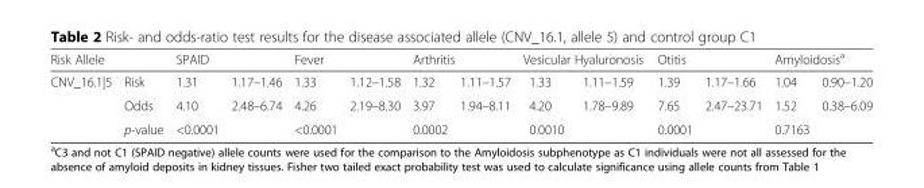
<table><thead><tr><td rowspan="2">Risk Allele CNV_16.1|5</td><td rowspan="2">Risk</td><td colspan="2">SPAID</td><td colspan="2">Fever</td><td colspan="2">Arthritis</td><td colspan="2">Vesicular Hyaluronosis</td><td colspan="2">Otitis</td><td colspan="2">Amyloidosis<sup>a</sup></td></tr><tr><td>1.31</td><td>1.17–1.46</td><td>1.33</td><td>1.12–1.58</td><td>1.32</td><td>1.11–1.57</td><td>1.33</td><td>1.11–1.59</td><td>1.39</td><td>1.17–1.66</td><td>1.04</td><td>0.90–1.20</td></tr></thead><tbody><tr><td></td><td>Odds</td><td>4.10</td><td>2.48–6.74</td><td>4.26</td><td>2.19–8.30</td><td>3.97</td><td>1.94–8.11</td><td>4.20</td><td>1.78–9.89</td><td>7.65</td><td>2.47–23.71</td><td>1.52</td><td>0.38–6.09</td></tr><tr><td></td><td>p-value</td><td>&lt;0.0001</td><td></td><td>&lt;0.0001</td><td></td><td>0.0002</td><td></td><td>0.0010</td><td></td><td>0.0001</td><td></td><td>0.7163</td><td></td></tr></tbody></table>